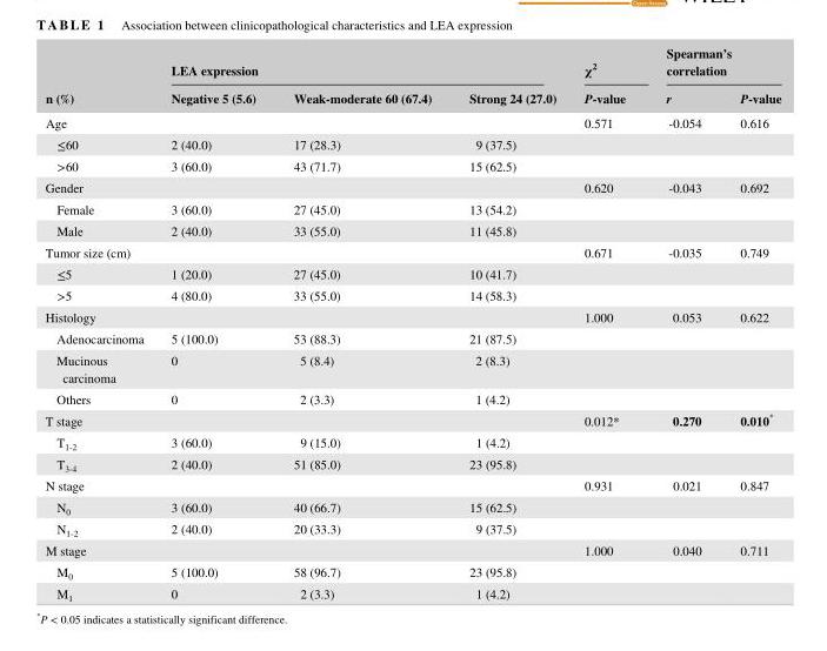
<table><thead><tr><td rowspan="2">n (%)</td><td colspan="3">LEA expression</td><td rowspan="2">χ<sup>2</sup> P- value</td><td colspan="2">Spearman’s correlation</td></tr><tr><td>Negative 5 (5.6)</td><td>Weak- moderate 60 (67.4)</td><td>Strong 24 (27.0)</td><td>r</td><td>P- value</td></tr></thead><tbody><tr><td>Age</td><td></td><td></td><td></td><td>0.571</td><td>- 0.054</td><td>0.616</td></tr><tr><td>≤60</td><td>2 (40.0)</td><td>17 (28.3)</td><td>9 (37.5)</td><td></td><td></td><td></td></tr><tr><td>&gt;60</td><td>3 (60.0)</td><td>43 (71.7)</td><td>15 (62.5)</td><td></td><td></td><td></td></tr><tr><td>Gender</td><td></td><td></td><td></td><td>0.620</td><td>- 0.043</td><td>0.692</td></tr><tr><td>Female</td><td>3 (60.0)</td><td>27 (45.0)</td><td>13 (54.2)</td><td></td><td></td><td></td></tr><tr><td>Male</td><td>2 (40.0)</td><td>33 (55.0)</td><td>11 (45.8)</td><td></td><td></td><td></td></tr><tr><td>Tumor size (cm)</td><td></td><td></td><td></td><td>0.671</td><td>- 0.035</td><td>0.749</td></tr><tr><td>≤5</td><td>1 (20.0)</td><td>27 (45.0)</td><td>10 (41.7)</td><td></td><td></td><td></td></tr><tr><td>&gt;5</td><td>4 (80.0)</td><td>33 (55.0)</td><td>14 (58.3)</td><td></td><td></td><td></td></tr><tr><td>Histology</td><td></td><td></td><td></td><td>1.000</td><td>0.053</td><td>0.622</td></tr><tr><td>Adenocarcinoma</td><td>5 (100.0)</td><td>53 (88.3)</td><td>21 (87.5)</td><td></td><td></td><td></td></tr><tr><td>Mucinous carcinoma</td><td>0</td><td>5 (8.4)</td><td>2 (8.3)</td><td></td><td></td><td></td></tr><tr><td>Others</td><td>0</td><td>2 (3.3)</td><td>1 (4.2)</td><td></td><td></td><td></td></tr><tr><td>T stage</td><td></td><td></td><td></td><td>0.012*</td><td>0.270</td><td>0.010*</td></tr><tr><td>T<sub>1-2</sub></td><td>3 (60.0)</td><td>9 (15.0)</td><td>1 (4.2)</td><td></td><td></td><td></td></tr><tr><td>T<sub>3-4</sub></td><td>2 (40.0)</td><td>51 (85.0)</td><td>23 (95.8)</td><td></td><td></td><td></td></tr><tr><td>N stage</td><td></td><td></td><td></td><td>0.931</td><td>0.021</td><td>0.847</td></tr><tr><td>N<sub>0</sub></td><td>3 (60.0)</td><td>40 (66.7)</td><td>15 (62.5)</td><td></td><td></td><td></td></tr><tr><td>N<sub>1-2</sub></td><td>2 (40.0)</td><td>20 (33.3)</td><td>9 (37.5)</td><td></td><td></td><td></td></tr><tr><td>M stage</td><td></td><td></td><td></td><td>1.000</td><td>0.040</td><td>0.711</td></tr><tr><td>M<sub>0</sub></td><td>5 (100.0)</td><td>58 (96.7)</td><td>23 (95.8)</td><td></td><td></td><td></td></tr><tr><td>M<sub>1</sub></td><td>0</td><td>2 (3.3)</td><td>1 (4.2)</td><td></td><td></td><td></td></tr></tbody></table>